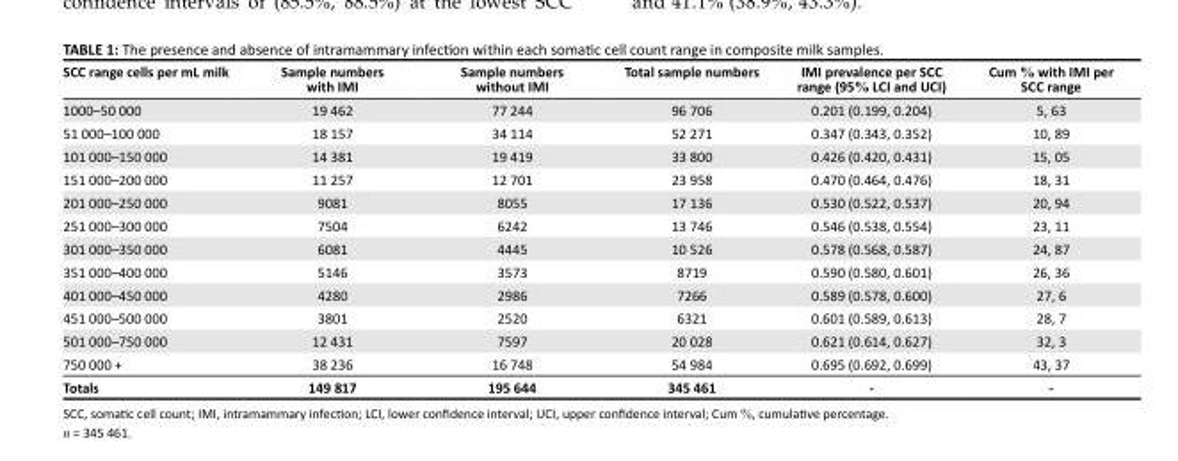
<table><thead><tr><td>SCC range cells per mL milk</td><td>Sample numbers with IMI</td><td>Sample numbers without IMI</td><td>Total sample numbers</td><td>IMI prevalence per SCC range (95% LCI and UCI)</td><td>Cum % with IMI per SCC range</td></tr></thead><tbody><tr><td>1000–50 000</td><td>19 462</td><td>77 244</td><td>96 706</td><td>0.201 (0.199, 0.204)</td><td>5, 63</td></tr><tr><td>51 000–100 000</td><td>18 157</td><td>34 114</td><td>52 271</td><td>0.347 (0.343, 0.352)</td><td>10, 89</td></tr><tr><td>101 000–150 000</td><td>14 381</td><td>19 419</td><td>33 800</td><td>0.426 (0.420, 0.431)</td><td>15, 05</td></tr><tr><td>151 000–200 000</td><td>11 257</td><td>12 701</td><td>23 958</td><td>0.470 (0.464, 0.476)</td><td>18, 31</td></tr><tr><td>201 000–250 000</td><td>9081</td><td>8055</td><td>17 136</td><td>0.530 (0.522, 0.537)</td><td>20, 94</td></tr><tr><td>251 000–300 000</td><td>7504</td><td>6242</td><td>13 746</td><td>0.546 (0.538, 0.554)</td><td>23, 11</td></tr><tr><td>301 000–350 000</td><td>6081</td><td>4445</td><td>10 526</td><td>0.578 (0.568, 0.587)</td><td>24, 87</td></tr><tr><td>351 000–400 000</td><td>5146</td><td>3573</td><td>8719</td><td>0.590 (0.580, 0.601)</td><td>26, 36</td></tr><tr><td>401 000–450 000</td><td>4280</td><td>2986</td><td>7266</td><td>0.589 (0.578, 0.600)</td><td>27, 6</td></tr><tr><td>451 000–500 000</td><td>3801</td><td>2520</td><td>6321</td><td>0.601 (0.589, 0.613)</td><td>28, 7</td></tr><tr><td>501 000–750 000</td><td>12 431</td><td>7597</td><td>20 028</td><td>0.621 (0.614, 0.627)</td><td>32, 3</td></tr><tr><td>750 000 +</td><td>38 236</td><td>16 748</td><td>54 984</td><td>0.695 (0.692, 0.699)</td><td>43, 37</td></tr><tr><td>Totals</td><td>149 817</td><td>195 644</td><td>345 461</td><td>-</td><td>-</td></tr></tbody></table>